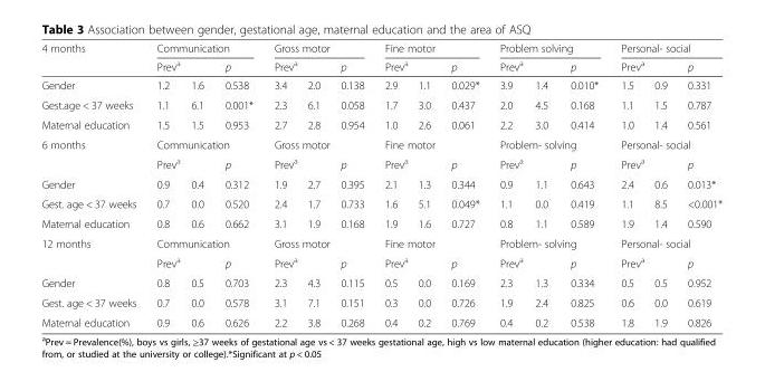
<table><thead><tr><td rowspan="3">4 months Gender</td><td colspan="3">Communication</td><td colspan="3">Gross motor</td><td colspan="3">Fine motor</td><td colspan="3">Problem solving</td><td colspan="3">Personal- social</td></tr><tr><td colspan="2">Prev<sup>a</sup></td><td rowspan="2">p 0.538</td><td colspan="2">Prev<sup>a</sup></td><td rowspan="2">p 0.138</td><td colspan="2">Prev<sup>a</sup></td><td rowspan="2">p 0.029*</td><td colspan="2">Prev<sup>a</sup></td><td rowspan="2">p 0.010*</td><td colspan="2">Prev<sup>a</sup></td><td rowspan="2">p 0.331</td></tr><tr><td>1.2</td><td>1.6</td><td>3.4</td><td>2.0</td><td>2.9</td><td>1.1</td><td>3.9</td><td>1.4</td><td>1.5</td><td>0.9</td></tr></thead><tbody><tr><td>Gest.age &lt; 37 weeks</td><td>1.1</td><td>6.1</td><td>0.001*</td><td>2.3</td><td>6.1</td><td>0.058</td><td>1.7</td><td>3.0</td><td>0.437</td><td>2.0</td><td>4.5</td><td>0.168</td><td>1.1</td><td>1.5</td><td>0.787</td></tr><tr><td>Maternal education</td><td>1.5</td><td>1.5</td><td>0.953</td><td>2.7</td><td>2.8</td><td>0.954</td><td>1.0</td><td>2.6</td><td>0.061</td><td>2.2</td><td>3.0</td><td>0.414</td><td>1.0</td><td>1.4</td><td>0.561</td></tr><tr><td rowspan="2">6 months</td><td colspan="3">Communication</td><td colspan="3">Gross motor</td><td colspan="3">Fine motor</td><td colspan="3">Problem- solving</td><td colspan="3">Personal- social</td></tr><tr><td colspan="2">Prev<sup>a</sup></td><td>p</td><td colspan="2">Prev<sup>a</sup></td><td>p</td><td colspan="2">Prev<sup>a</sup></td><td>p</td><td colspan="2">Prev<sup>a</sup></td><td>p</td><td colspan="2">Prev<sup>a</sup></td><td>p</td></tr><tr><td>Gender</td><td>0.9</td><td>0.4</td><td>0.312</td><td>1.9</td><td>2.7</td><td>0.395</td><td>2.1</td><td>1.3</td><td>0.344</td><td>0.9</td><td>1.1</td><td>0.643</td><td>2.4</td><td>0.6</td><td>0.013*</td></tr><tr><td>Gest. age &lt; 37 weeks</td><td>0.7</td><td>0.0</td><td>0.520</td><td>2.4</td><td>1.7</td><td>0.733</td><td>1.6</td><td>5.1</td><td>0.049*</td><td>1.1</td><td>0.0</td><td>0.419</td><td>1.1</td><td>8.5</td><td>&lt;0.001*</td></tr><tr><td>Maternal education</td><td>0.8</td><td>0.6</td><td>0.662</td><td>3.1</td><td>1.9</td><td>0.168</td><td>1.9</td><td>1.6</td><td>0.727</td><td>0.8</td><td>1.1</td><td>0.589</td><td>1.9</td><td>1.4</td><td>0.590</td></tr><tr><td rowspan="2">12 months</td><td colspan="3">Communication</td><td colspan="3">Gross motor</td><td colspan="3">Fine motor</td><td colspan="3">Problem- solving</td><td colspan="3">Personal- social</td></tr><tr><td colspan="2">Prev<sup>a</sup></td><td>p</td><td colspan="2">Prev<sup>a</sup></td><td>p</td><td colspan="2">Prev<sup>a</sup></td><td>p</td><td colspan="2">Prev<sup>a</sup></td><td>p</td><td colspan="2">Prev<sup>a</sup></td><td>p</td></tr><tr><td>Gender</td><td>0.8</td><td>0.5</td><td>0.703</td><td>2.3</td><td>4.3</td><td>0.115</td><td>0.5</td><td>0.0</td><td>0.169</td><td>2.3</td><td>1.3</td><td>0.334</td><td>0.5</td><td>0.5</td><td>0.952</td></tr><tr><td>Gest. age &lt; 37 weeks</td><td>0.7</td><td>0.0</td><td>0.578</td><td>3.1</td><td>7.1</td><td>0.151</td><td>0.3</td><td>0.0</td><td>0.726</td><td>1.9</td><td>2.4</td><td>0.825</td><td>0.6</td><td>0.0</td><td>0.619</td></tr><tr><td>Maternal education</td><td>0.9</td><td>0.6</td><td>0.626</td><td>2.2</td><td>3.8</td><td>0.268</td><td>0.4</td><td>0.2</td><td>0.769</td><td>0.4</td><td>0.2</td><td>0.538</td><td>1.8</td><td>1.9</td><td>0.826</td></tr></tbody></table>